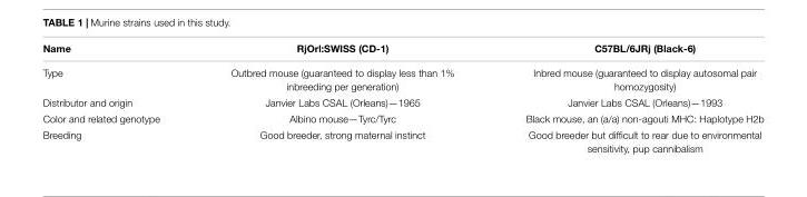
<table><thead><tr><td>Name</td><td>RjOrl:SWISS (CD-1)</td><td>C57BL/6JRj (Black-6)</td></tr></thead><tbody><tr><td>Type</td><td>Outbred mouse (guaranteed to display less than 1% inbreeding per generation)</td><td>Inbred mouse (guaranteed to display autosomal pair homozygosity)</td></tr><tr><td>Distributor and origin</td><td>Janvier Labs CSAL (Orleans)—1965</td><td>Janvier Labs CSAL (Orleans)—1993</td></tr><tr><td>Color and related genotype</td><td>Albino mouse—Tyrc/Tyrc</td><td>Black mouse, an (a/a) non-agouti MHC: Haplotype H2b</td></tr><tr><td>Breeding</td><td>Good breeder, strong maternal instinct</td><td>Good breeder but difficult to rear due to environmental sensitivity, pup cannibalism</td></tr></tbody></table>